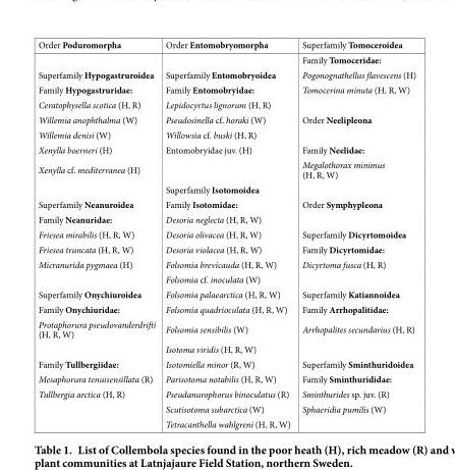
<table><tbody><tr><td rowspan="2">Order Poduromorpha</td><td>Order Entomobryomorpha</td><td>Superfamily Tomoceroidea</td></tr><tr><td></td><td>Family Tomoceridae:</td></tr><tr><td>Superfamily Hypogastruroidea</td><td>Superfamily Entomobryoidea</td><td>Pogonognathellus flavescens (H)</td></tr><tr><td>Family Hypogastruridae:</td><td>Family Entomobryidae:</td><td>Tomocerina minuta (H, R, W)</td></tr><tr><td>Ceratophysella scotica (H, R)</td><td>Lepidocyrtus lignorum (H, R)</td><td></td></tr><tr><td>Willemia anophthalma (W)</td><td>Pseudosinella cf. horaki (W)</td><td>Order Neelipleona</td></tr><tr><td>Willemia denisi (W)</td><td>Willowsia cf. buski (H, R)</td><td></td></tr><tr><td>Xenylla boerneri (H)</td><td>Entomobryidae juv. (H)</td><td>Family Neelidae:</td></tr><tr><td rowspan="2">Xenylla cf. mediterranea (H)</td><td></td><td>Megalothorax minimus (H, R, W)</td></tr><tr><td>Superfamily Isotomoidea</td><td></td></tr><tr><td>Superfamily Neanuroidea</td><td>Family Isotomidae:</td><td>Order Symphypleona</td></tr><tr><td>Family Neanuridae:</td><td>Desoria neglecta (H, R, W)</td><td></td></tr><tr><td>Friesea mirabilis (H, R, W)</td><td>Desoria olivacea (H, R, W)</td><td>Superfamily Dicyrtomoidea</td></tr><tr><td>Friesea truncata (H, R, W)</td><td>Desoria violacea (H, R, W)</td><td>Family Dicyrtomidae:</td></tr><tr><td rowspan="2">Micranurida pygmaea (H)</td><td>Folsomia brevicauda (H, R, W)</td><td>Dicyrtoma fusca (H, R)</td></tr><tr><td>Folsomia cf. inoculata (W)</td><td></td></tr><tr><td>Superfamily Onychiuroidea</td><td>Folsomia palaearctica (H, R, W)</td><td>Superfamily Katiannoidea</td></tr><tr><td>Family Onychiuridae:</td><td>Folsomia quadrioculata (H, R, W)</td><td>Family Arrhopalitidae:</td></tr><tr><td rowspan="2">Protaphorura pseudovanderdrifti (H, R, W)</td><td>Folsomia sensibilis (W)</td><td>Arrhopalites secundarius (H, R)</td></tr><tr><td>Isotoma viridis (H, R, W)</td><td></td></tr><tr><td>Family Tullbergiidae:</td><td>Isotomiella minor (R, W)</td><td>Superfamily Sminthuridoidea</td></tr><tr><td>Mesaphorura tenuisensillata (R)</td><td>Parisotoma notabilis (H, R, W)</td><td>Family Sminthurididae:</td></tr><tr><td rowspan="3">Tullbergia arctica (H, R)</td><td>Pseudanurophorus binoculatus (R)</td><td>Sminthurides sp. juv. (R)</td></tr><tr><td>Scutisotoma subarctica (W)</td><td>Sphaeridia pumilis (W)</td></tr><tr><td>Tetracanthella wahlgreni (H, R, W)</td><td></td></tr></tbody></table>